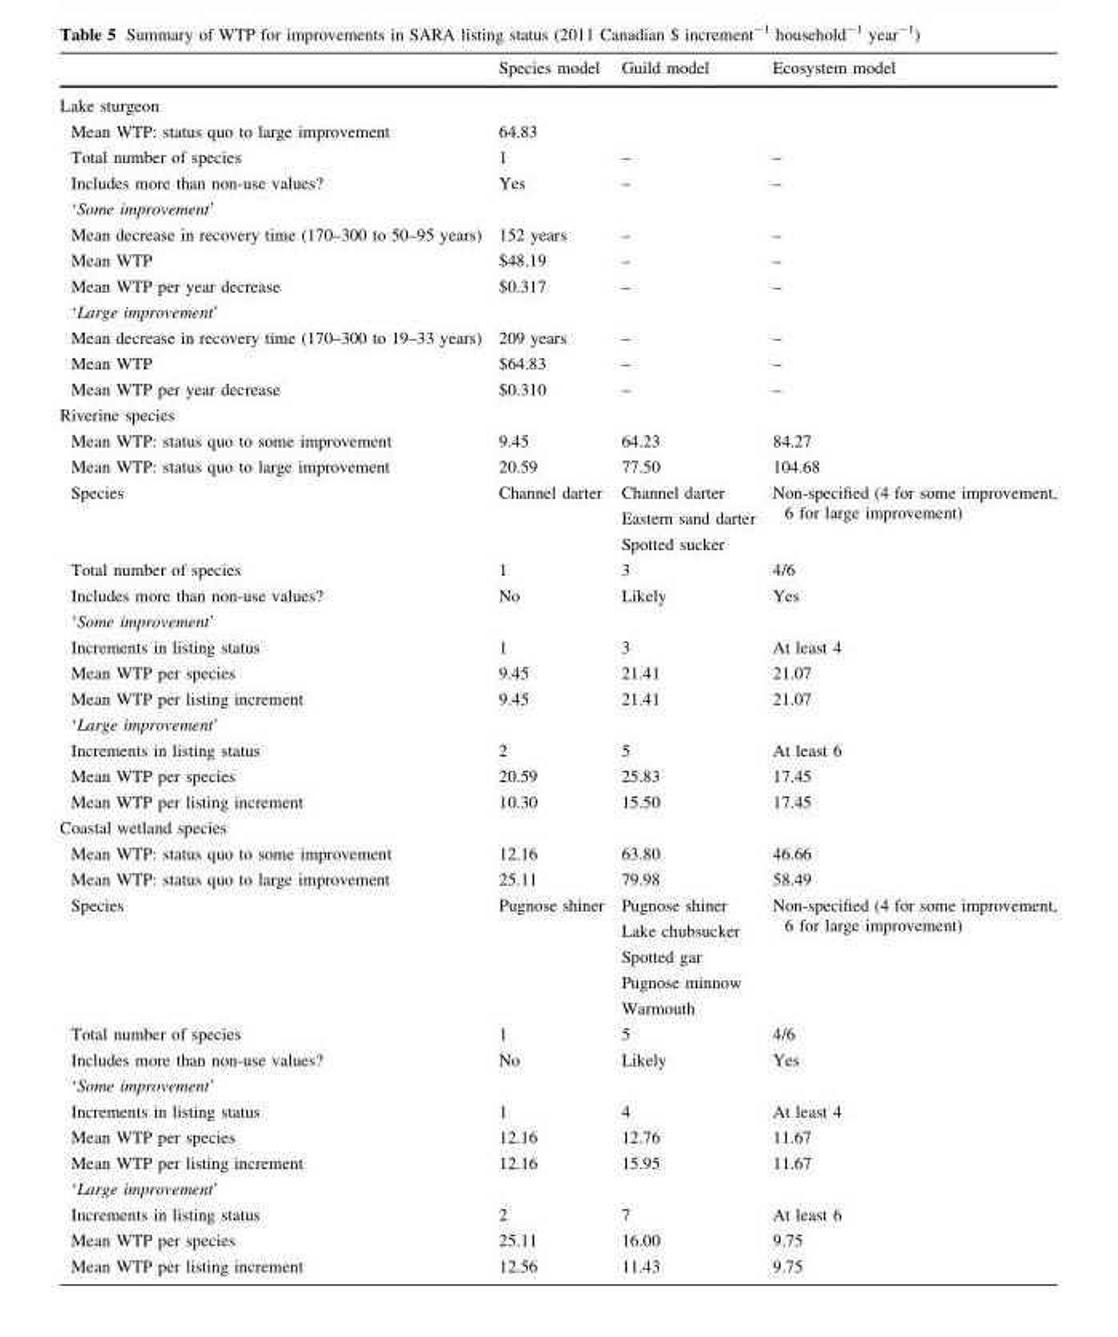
<table><thead><tr><td></td><td>Species model</td><td>Guild model</td><td>Ecosystem model</td></tr></thead><tbody><tr><td colspan="4">Lake sturgeon</td></tr><tr><td>Mean WTP: status quo to large improvement</td><td>64.83</td><td></td><td></td></tr><tr><td>Total number of species</td><td>1</td><td>–</td><td>–</td></tr><tr><td>Includes more than non-use values?</td><td>Yes</td><td>–</td><td>–</td></tr><tr><td colspan="4">‘Some improvement’</td></tr><tr><td>Mean decrease in recovery time (170–300 to 50–95 years)</td><td>152 years</td><td>–</td><td>–</td></tr><tr><td>Mean WTP</td><td>$48.19</td><td>–</td><td>–</td></tr><tr><td>Mean WTP per year decrease</td><td>$0.317</td><td>–</td><td>–</td></tr><tr><td colspan="4">‘Large improvement’</td></tr><tr><td>Mean decrease in recovery time (170–300 to 19–33 years)</td><td>209 years</td><td>–</td><td>–</td></tr><tr><td>Mean WTP</td><td>$64.83</td><td>–</td><td>–</td></tr><tr><td>Mean WTP per year decrease</td><td>$0.310</td><td>–</td><td>–</td></tr><tr><td colspan="4">Riverine species</td></tr><tr><td>Mean WTP: status quo to some improvement</td><td>9.45</td><td>64.23</td><td>84.27</td></tr><tr><td>Mean WTP: status quo to large improvement</td><td>20.59</td><td>77.50</td><td>104.68</td></tr><tr><td>Species</td><td>Channel darter</td><td>Channel darter Eastern sand darter Spotted sucker</td><td>Non-specified (4 for some improvement, 6 for large improvement)</td></tr><tr><td>Total number of species</td><td>1</td><td>3</td><td>4/6</td></tr><tr><td>Includes more than non-use values?</td><td>No</td><td>Likely</td><td>Yes</td></tr><tr><td colspan="4">‘Some improvement’</td></tr><tr><td>Increments in listing status</td><td>1</td><td>3</td><td>At least 4</td></tr><tr><td>Mean WTP per species</td><td>9.45</td><td>21.41</td><td>21.07</td></tr><tr><td>Mean WTP per listing increment</td><td>9.45</td><td>21.41</td><td>21.07</td></tr><tr><td colspan="4">‘Large improvement’</td></tr><tr><td>Increments in listing status</td><td>2</td><td>5</td><td>At least 6</td></tr><tr><td>Mean WTP per species</td><td>20.59</td><td>25.83</td><td>17.45</td></tr><tr><td>Mean WTP per listing increment</td><td>10.30</td><td>15.50</td><td>17.45</td></tr><tr><td colspan="4">Coastal wetland species</td></tr><tr><td>Mean WTP: status quo to some improvement</td><td>12.16</td><td>63.80</td><td>46.66</td></tr><tr><td>Mean WTP: status quo to large improvement</td><td>25.11</td><td>79.98</td><td>58.49</td></tr><tr><td>Species</td><td>Pugnose shiner</td><td>Pugnose shiner Lake chubsucker Spotted gar Pugnose minnow Warmouth</td><td>Non-specified (4 for some improvement, 6 for large improvement)</td></tr><tr><td>Total number of species</td><td>1</td><td>5</td><td>4/6</td></tr><tr><td>Includes more than non-use values?</td><td>No</td><td>Likely</td><td>Yes</td></tr><tr><td colspan="4">‘Some improvement’</td></tr><tr><td>Increments in listing status</td><td>1</td><td>4</td><td>At least 4</td></tr><tr><td>Mean WTP per species</td><td>12.16</td><td>12.76</td><td>11.67</td></tr><tr><td>Mean WTP per listing increment</td><td>12.16</td><td>15.95</td><td>11.67</td></tr><tr><td colspan="4">‘Large improvement’</td></tr><tr><td>Increments in listing status</td><td>2</td><td>7</td><td>At least 6</td></tr><tr><td>Mean WTP per species</td><td>25.11</td><td>16.00</td><td>9.75</td></tr><tr><td>Mean WTP per listing increment</td><td>12.56</td><td>11.43</td><td>9.75</td></tr></tbody></table>